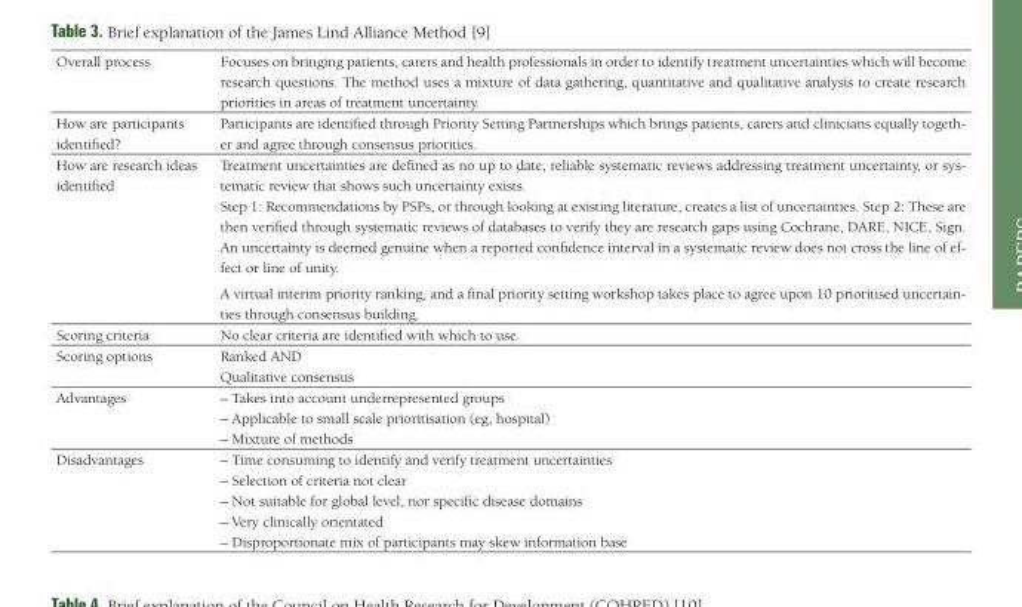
<table><tbody><tr><td>Overall process</td><td>Focuses on bringing patients, carers and health professionals in order to identify treatment uncertainties which will become research questions. The method uses a mixture of data gathering, quantitative and qualitative analysis to create research priorities in areas of treatment uncertainty.</td></tr><tr><td>How are participants identified?</td><td>Participants are identified through Priority Setting Partnerships which brings patients, carers and clinicians equally togeth- er and agree through consensus priorities.</td></tr><tr><td>How are research ideas identified</td><td>Treatment uncertainties are defined as no up to date, reliable systematic reviews addressing treatment uncertainty, or sys- tematic review that shows such uncertainty exists. Step 1: Recommendations by PSPs, or through looking at existing literature, creates a list of uncertainties. Step 2: These are then verified through systematic reviews of databases to verify they are research gaps using Cochrane, DARE, NICE, Sign. An uncertainty is deemed genuine when a reported confidence interval in a systematic review does not cross the line of ef- fect or line of unity. A virtual interim priority ranking, and a final priority setting workshop takes place to agree upon 10 prioritised uncertain- ties through consensus building.</td></tr><tr><td>Scoring criteria</td><td>No clear criteria are identified with which to use.</td></tr><tr><td>Scoring options</td><td>Ranked AND Qualitative consensus</td></tr><tr><td>Advantages</td><td>– Takes into account underrepresented groups – Applicable to small scale prioritisation (eg, hospital) – Mixture of methods</td></tr><tr><td>Disadvantages</td><td>– Time consuming to identify and verify treatment uncertainties – Selection of criteria not clear – Not suitable for global level, nor specific disease domains – Very clinically orientated – Disproportionate mix of participants may skew information base</td></tr></tbody></table>